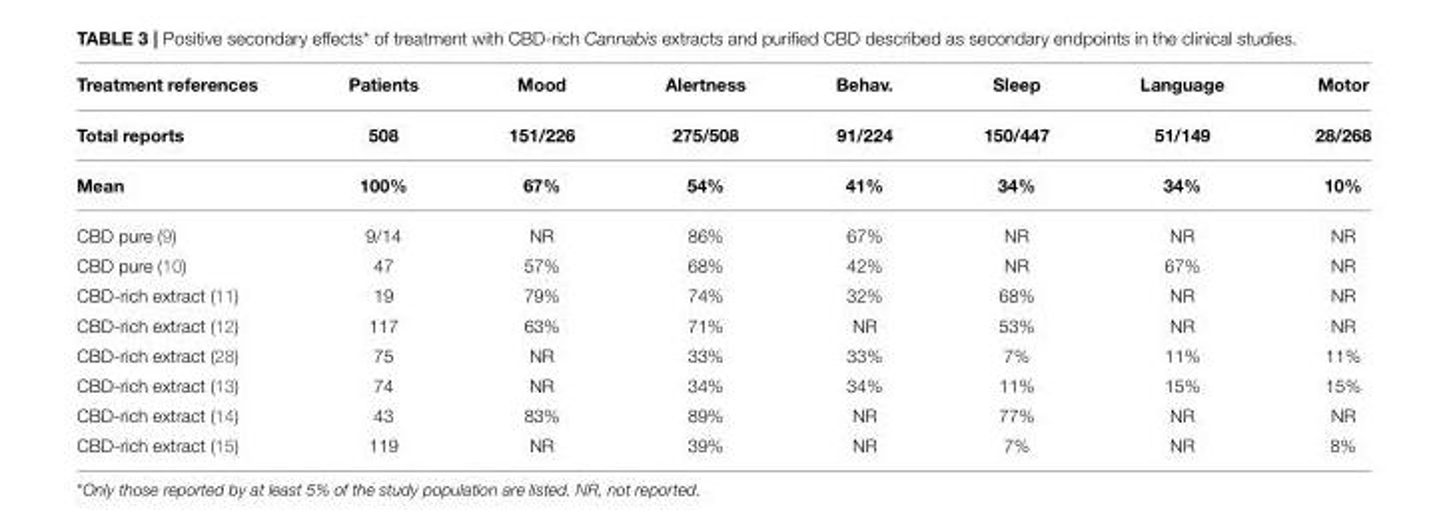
<table><thead><tr><td rowspan="3">Treatment references Total reports Mean</td><td rowspan="3">Patients 508 100%</td><td rowspan="3">Mood 151/226 67%</td><td rowspan="3">Alertness 275/508 54%</td><td rowspan="3">Behav. 91/224 41%</td><td rowspan="3">Sleep 150/447 34%</td><td rowspan="3">Language 51/149 34%</td><td rowspan="3">Motor 28/268 10%</td></tr><tr></tr><tr></tr></thead><tbody><tr><td>CBD pure (9)</td><td>9/14</td><td>NR</td><td>86%</td><td>67%</td><td>NR</td><td>NR</td><td>NR</td></tr><tr><td>CBD pure (10)</td><td>47</td><td>57%</td><td>68%</td><td>42%</td><td>NR</td><td>67%</td><td>NR</td></tr><tr><td>CBD-rich extract (11)</td><td>19</td><td>79%</td><td>74%</td><td>32%</td><td>68%</td><td>NR</td><td>NR</td></tr><tr><td>CBD-rich extract (12)</td><td>117</td><td>63%</td><td>71%</td><td>NR</td><td>53%</td><td>NR</td><td>NR</td></tr><tr><td>CBD-rich extract (28)</td><td>75</td><td>NR</td><td>33%</td><td>33%</td><td>7%</td><td>11%</td><td>11%</td></tr><tr><td>CBD-rich extract (13)</td><td>74</td><td>NR</td><td>34%</td><td>34%</td><td>11%</td><td>15%</td><td>15%</td></tr><tr><td>CBD-rich extract (14)</td><td>43</td><td>83%</td><td>89%</td><td>NR</td><td>77%</td><td>NR</td><td>NR</td></tr><tr><td>CBD-rich extract (15)</td><td>119</td><td>NR</td><td>39%</td><td>NR</td><td>7%</td><td>NR</td><td>8%</td></tr></tbody></table>